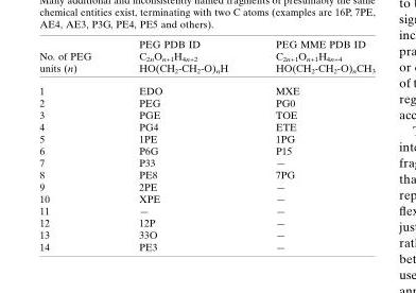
<table><thead><tr><td>No. of PEG units (n)</td><td>PEG PDB ID C<sub>2n</sub>O<sub>n+1</sub>H<sub>4n+2</sub> HO(CH<sub>2</sub>-CH<sub>2</sub>-O)<sub>n</sub>H</td><td>PEG MME PDB ID C<sub>2n+1</sub>O<sub>n+1</sub>H<sub>4n+4</sub> HO(CH<sub>2</sub>-CH<sub>2</sub>-O)<sub>n</sub>CH<sub>3</sub></td></tr></thead><tbody><tr><td>1</td><td>EDO</td><td>MXE</td></tr><tr><td>2</td><td>PEG</td><td>PG0</td></tr><tr><td>3</td><td>PGE</td><td>TOE</td></tr><tr><td>4</td><td>PG4</td><td>ETE</td></tr><tr><td>5</td><td>1PE</td><td>1PG</td></tr><tr><td>6</td><td>P6G</td><td>P15</td></tr><tr><td>7</td><td>P33</td><td>—</td></tr><tr><td>8</td><td>PE8</td><td>7PG</td></tr><tr><td>9</td><td>2PE</td><td>—</td></tr><tr><td>10</td><td>XPE</td><td>—</td></tr><tr><td>11</td><td>—</td><td>—</td></tr><tr><td>12</td><td>12P</td><td>—</td></tr><tr><td>13</td><td>33O</td><td>—</td></tr><tr><td>14</td><td>PE3</td><td>—</td></tr></tbody></table>